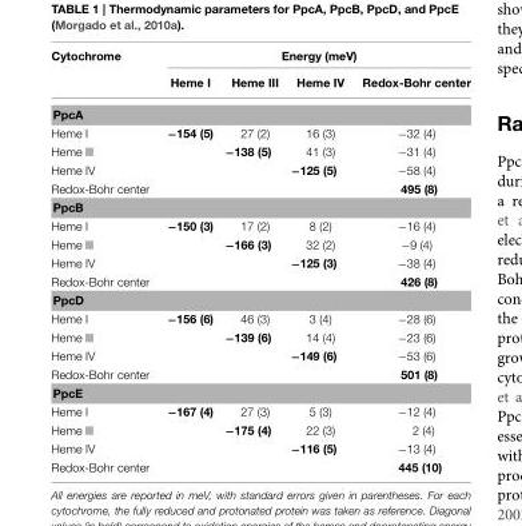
<table><thead><tr><td rowspan="2">Cytochrome</td><td colspan="4">Energy (meV)</td></tr><tr><td>Heme I</td><td>Heme III</td><td>Heme IV</td><td>Redox-Bohr center</td></tr></thead><tbody><tr><td colspan="5">PpcA</td></tr><tr><td>Heme I</td><td>−154 (5)</td><td>27 (2)</td><td>16 (3)</td><td>−32 (4)</td></tr><tr><td>Heme III</td><td></td><td>−138 (5)</td><td>41 (3)</td><td>−31 (4)</td></tr><tr><td>Heme IV</td><td></td><td></td><td>−125 (5)</td><td>−58 (4)</td></tr><tr><td>Redox-Bohr center</td><td></td><td></td><td></td><td>495 (8)</td></tr><tr><td colspan="5">PpcB</td></tr><tr><td>Heme I</td><td>−150 (3)</td><td>17 (2)</td><td>8 (2)</td><td>−16 (4)</td></tr><tr><td>Heme III</td><td></td><td>−166 (3)</td><td>32 (2)</td><td>−9 (4)</td></tr><tr><td>Heme IV</td><td></td><td></td><td>−125 (3)</td><td>−38 (4)</td></tr><tr><td>Redox-Bohr center</td><td></td><td></td><td></td><td>426 (8)</td></tr><tr><td colspan="5">PpcD</td></tr><tr><td>Heme I</td><td>−156 (6)</td><td>46 (3)</td><td>3 (4)</td><td>−28 (6)</td></tr><tr><td>Heme III</td><td></td><td>−139 (6)</td><td>14 (4)</td><td>−23 (6)</td></tr><tr><td>Heme IV</td><td></td><td></td><td>−149 (6)</td><td>−53 (6)</td></tr><tr><td>Redox-Bohr center</td><td></td><td></td><td></td><td>501 (8)</td></tr><tr><td colspan="5">PpcE</td></tr><tr><td>Heme I</td><td>−167 (4)</td><td>27 (3)</td><td>5 (3)</td><td>−12 (4)</td></tr><tr><td>Heme III</td><td></td><td>−175 (4)</td><td>22 (3)</td><td>2 (4)</td></tr><tr><td>Heme IV</td><td></td><td></td><td>−116 (5)</td><td>−13 (4)</td></tr><tr><td>Redox-Bohr center</td><td></td><td></td><td></td><td>445 (10)</td></tr></tbody></table>